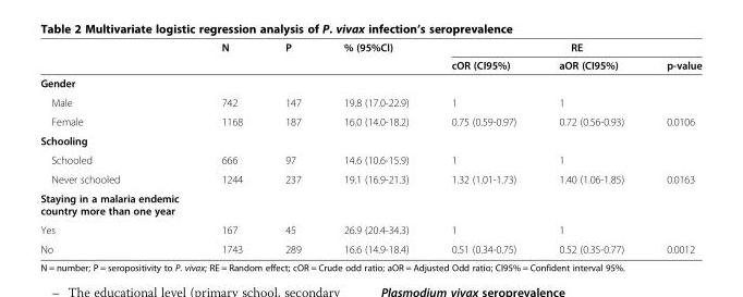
<table><thead><tr><td rowspan="2"></td><td rowspan="2">N</td><td rowspan="2">P</td><td rowspan="2">% (95%CI)</td><td colspan="3">RE</td></tr><tr><td>cOR (CI95%)</td><td>aOR (CI95%)</td><td>p-value</td></tr></thead><tbody><tr><td colspan="7">Gender</td></tr><tr><td>Male</td><td>742</td><td>147</td><td>19.8 (17.0-22.9)</td><td>1</td><td>1</td><td></td></tr><tr><td>Female</td><td>1168</td><td>187</td><td>16.0 (14.0-18.2)</td><td>0.75 (0.59-0.97)</td><td>0.72 (0.56-0.93)</td><td>0.0106</td></tr><tr><td colspan="7">Schooling</td></tr><tr><td>Schooled</td><td>666</td><td>97</td><td>14.6 (10.6-15.9)</td><td>1</td><td>1</td><td></td></tr><tr><td>Never schooled</td><td>1244</td><td>237</td><td>19.1 (16.9-21.3)</td><td>1.32 (1.01-1.73)</td><td>1.40 (1.06-1.85)</td><td>0.0163</td></tr><tr><td colspan="7">Staying in a malaria endemic country more than one year</td></tr><tr><td>Yes</td><td>167</td><td>45</td><td>26.9 (20.4-34.3)</td><td>1</td><td>1</td><td></td></tr><tr><td>No</td><td>1743</td><td>289</td><td>16.6 (14.9-18.4)</td><td>0.51 (0.34-0.75)</td><td>0.52 (0.35-0.77)</td><td>0.0012</td></tr></tbody></table>